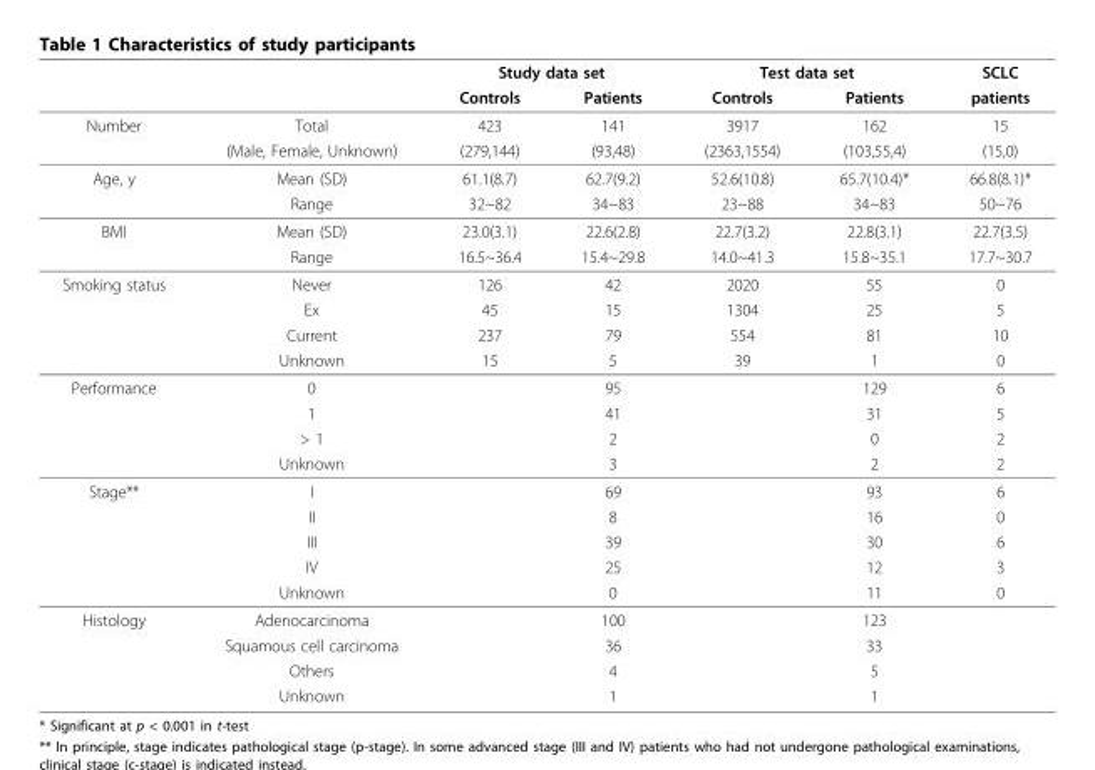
<table><thead><tr><td rowspan="2"></td><td rowspan="2"></td><td colspan="2">Study data set</td><td colspan="2">Test data set</td><td rowspan="2">SCLC patients</td></tr><tr><td>Controls</td><td>Patients</td><td>Controls</td><td>Patients</td></tr></thead><tbody><tr><td rowspan="2">Number</td><td>Total</td><td>423</td><td>141</td><td>3917</td><td>162</td><td>15</td></tr><tr><td>(Male, Female, Unknown)</td><td>(279,144)</td><td>(93,48)</td><td>(2363,1554)</td><td>(103,55,4)</td><td>(15,0)</td></tr><tr><td rowspan="2">Age, y</td><td>Mean (SD)</td><td>61.1(8.7)</td><td>62.7(9.2)</td><td>52.6(10.8)</td><td>65.7(10.4)*</td><td>66.8(8.1)*</td></tr><tr><td>Range</td><td>32~82</td><td>34~83</td><td>23~88</td><td>34~83</td><td>50~76</td></tr><tr><td rowspan="2">BMI</td><td>Mean (SD)</td><td>23.0(3.1)</td><td>22.6(2.8)</td><td>22.7(3.2)</td><td>22.8(3.1)</td><td>22.7(3.5)</td></tr><tr><td>Range</td><td>16.5~36.4</td><td>15.4~29.8</td><td>14.0~41.3</td><td>15.8~35.1</td><td>17.7~30.7</td></tr><tr><td rowspan="4">Smoking status</td><td>Never</td><td>126</td><td>42</td><td>2020</td><td>55</td><td>0</td></tr><tr><td>Ex</td><td>45</td><td>15</td><td>1304</td><td>25</td><td>5</td></tr><tr><td>Current</td><td>237</td><td>79</td><td>554</td><td>81</td><td>10</td></tr><tr><td>Unknown</td><td>15</td><td>5</td><td>39</td><td>1</td><td>0</td></tr><tr><td rowspan="4">Performance</td><td>0</td><td></td><td>95</td><td></td><td>129</td><td>6</td></tr><tr><td>1</td><td></td><td>41</td><td></td><td>31</td><td>5</td></tr><tr><td>&gt; 1</td><td></td><td>2</td><td></td><td>0</td><td>2</td></tr><tr><td>Unknown</td><td></td><td>3</td><td></td><td>2</td><td>2</td></tr><tr><td rowspan="5">Stage**</td><td>I</td><td></td><td>69</td><td></td><td>93</td><td>6</td></tr><tr><td>II</td><td></td><td>8</td><td></td><td>16</td><td>0</td></tr><tr><td>III</td><td></td><td>39</td><td></td><td>30</td><td>6</td></tr><tr><td>IV</td><td></td><td>25</td><td></td><td>12</td><td>3</td></tr><tr><td>Unknown</td><td></td><td>0</td><td></td><td>11</td><td>0</td></tr><tr><td rowspan="4">Histology</td><td>Adenocarcinoma</td><td></td><td>100</td><td></td><td>123</td><td></td></tr><tr><td>Squamous cell carcinoma</td><td></td><td>36</td><td></td><td>33</td><td></td></tr><tr><td>Others</td><td></td><td>4</td><td></td><td>5</td><td></td></tr><tr><td>Unknown</td><td></td><td>1</td><td></td><td>1</td><td></td></tr></tbody></table>